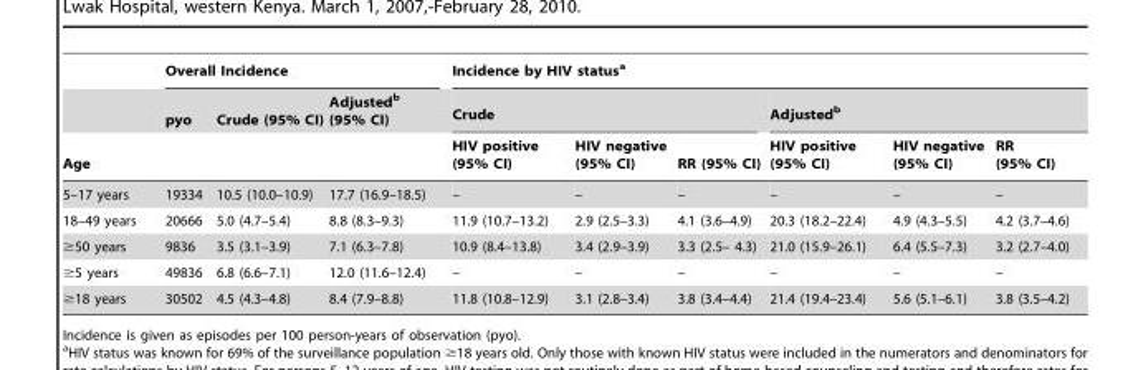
<table><thead><tr><td rowspan="3">Age</td><td colspan="3">Overall Incidence</td><td colspan="6">Incidence by HIV status<sup>a</sup></td></tr><tr><td rowspan="2">pyo</td><td rowspan="2">Crude (95% CI)</td><td rowspan="2">Adjusted<sup>b</sup> (95% CI)</td><td colspan="3">Crude</td><td colspan="3">Adjusted<sup>b</sup></td></tr><tr><td>HIV positive (95% CI)</td><td>HIV negative (95% CI)</td><td>RR (95% CI)</td><td>HIV positive (95% CI)</td><td>HIV negative (95% CI)</td><td>RR (95% CI)</td></tr></thead><tbody><tr><td>5–17 years</td><td>19334</td><td>10.5 (10.0–10.9)</td><td>17.7 (16.9–18.5)</td><td>–</td><td>–</td><td>–</td><td>–</td><td>–</td><td>–</td></tr><tr><td>18–49 years</td><td>20666</td><td>5.0 (4.7–5.4)</td><td>8.8 (8.3–9.3)</td><td>11.9 (10.7–13.2)</td><td>2.9 (2.5–3.3)</td><td>4.1 (3.6–4.9)</td><td>20.3 (18.2–22.4)</td><td>4.9 (4.3–5.5)</td><td>4.2 (3.7–4.6)</td></tr><tr><td>≥50 years</td><td>9836</td><td>3.5 (3.1–3.9)</td><td>7.1 (6.3–7.8)</td><td>10.9 (8.4–13.8)</td><td>3.4 (2.9–3.9)</td><td>3.3 (2.5– 4.3)</td><td>21.0 (15.9–26.1)</td><td>6.4 (5.5–7.3)</td><td>3.2 (2.7–4.0)</td></tr><tr><td>≥5 years</td><td>49836</td><td>6.8 (6.6–7.1)</td><td>12.0 (11.6–12.4)</td><td>–</td><td>–</td><td>–</td><td>–</td><td>–</td><td>–</td></tr><tr><td>≥18 years</td><td>30502</td><td>4.5 (4.3–4.8)</td><td>8.4 (7.9–8.8)</td><td>11.8 (10.8–12.9)</td><td>3.1 (2.8–3.4)</td><td>3.8 (3.4–4.4)</td><td>21.4 (19.4–23.4)</td><td>5.6 (5.1–6.1)</td><td>3.8 (3.5–4.2)</td></tr></tbody></table>